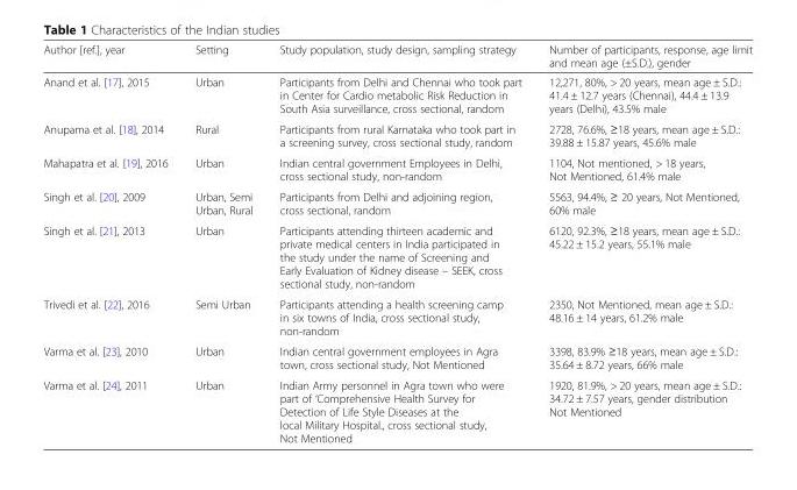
<table><thead><tr><td>Author [ref.], year</td><td>Setting</td><td>Study population, study design, sampling strategy</td><td>Number of participants, response, age limit and mean age (±S.D.), gender</td></tr></thead><tbody><tr><td>Anand et al. [17], 2015</td><td>Urban</td><td>Participants from Delhi and Chennai who took part in Center for Cardio metabolic Risk Reduction in South Asia surveillance, cross sectional, random</td><td>12,271, 80%, &gt; 20 years, mean age ± S.D.: 41.4 ± 12.7 years (Chennai), 44.4 ± 13.9 years (Delhi), 43.5% male</td></tr><tr><td>Anupama et al. [18], 2014</td><td>Rural</td><td>Participants from rural Karnataka who took part in a screening survey, cross sectional study, random</td><td>2728, 76.6%, ≥18 years, mean age ± S.D.: 39.88 ± 15.87 years, 45.6% male</td></tr><tr><td>Mahapatra et al. [19], 2016</td><td>Urban</td><td>Indian central government Employees in Delhi, cross sectional study, non-random</td><td>1104, Not mentioned, &gt; 18 years, Not Mentioned, 61.4% male</td></tr><tr><td>Singh et al. [20], 2009</td><td>Urban, Semi Urban, Rural</td><td>Participants from Delhi and adjoining region, cross sectional, random</td><td>5563, 94.4%, ≥ 20 years, Not Mentioned, 60% male</td></tr><tr><td>Singh et al. [21], 2013</td><td>Urban</td><td>Participants attending thirteen academic and private medical centers in India participated in the study under the name of Screening and Early Evaluation of Kidney disease – SEEK, cross sectional study, non-random</td><td>6120, 92.3%, ≥18 years, mean age ± S.D.: 45.22 ± 15.2 years, 55.1% male</td></tr><tr><td>Trivedi et al. [22], 2016</td><td>Semi Urban</td><td>Participants attending a health screening camp in six towns of India, cross sectional study, non-random</td><td>2350, Not Mentioned, mean age ± S.D.: 48.16 ± 14 years, 61.2% male</td></tr><tr><td>Varma et al. [23], 2010</td><td>Urban</td><td>Indian central government employees in Agra town, cross sectional study, Not Mentioned</td><td>3398, 83.9% ≥18 years, mean age ± S.D.: 35.64 ± 8.72 years, 66% male</td></tr><tr><td>Varma et al. [24], 2011</td><td>Urban</td><td>Indian Army personnel in Agra town who were part of ‘Comprehensive Health Survey for Detection of Life Style Diseases at the local Military Hospital., cross sectional study, Not Mentioned</td><td>1920, 81.9%, &gt; 20 years, mean age ± S.D.: 34.72 ± 7.57 years, gender distribution Not Mentioned</td></tr></tbody></table>